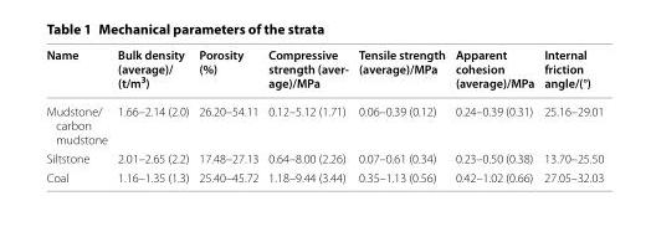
<table><thead><tr><td>Name</td><td>Bulk density (average)/ (t/m<sup>3</sup>)</td><td>Porosity (%)</td><td>Compressive strength (aver- age)/MPa</td><td>Tensile strength (average)/MPa</td><td>Apparent cohesion (average)/MPa</td><td>Internal friction angle/(°)</td></tr></thead><tbody><tr><td>Mudstone/ carbon mudstone</td><td>1.66–2.14 (2.0)</td><td>26.20–54.11</td><td>0.12–5.12 (1.71)</td><td>0.06–0.39 (0.12)</td><td>0.24–0.39 (0.31)</td><td>25.16–29.01</td></tr><tr><td>Siltstone</td><td>2.01–2.65 (2.2)</td><td>17.48–27.13</td><td>0.64–8.00 (2.26)</td><td>0.07–0.61 (0.34)</td><td>0.23–0.50 (0.38)</td><td>13.70–25.50</td></tr><tr><td>Coal</td><td>1.16–1.35 (1.3)</td><td>25.40–45.72</td><td>1.18–9.44 (3.44)</td><td>0.35–1.13 (0.56)</td><td>0.42–1.02 (0.66)</td><td>27.05–32.03</td></tr></tbody></table>